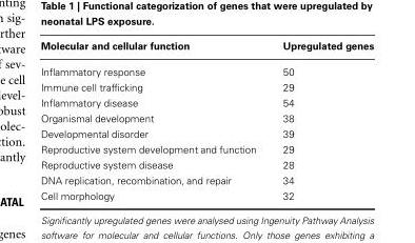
<table><thead><tr><td>Molecular and cellular function</td><td>Upregulated genes</td></tr></thead><tbody><tr><td>Inflammatory response</td><td>50</td></tr><tr><td>Immune cell trafficking</td><td>29</td></tr><tr><td>Inflammatory disease</td><td>54</td></tr><tr><td>Organismal development</td><td>38</td></tr><tr><td>Developmental disorder</td><td>39</td></tr><tr><td>Reproductive system development and function</td><td>29</td></tr><tr><td>Reproductive system disease</td><td>28</td></tr><tr><td>DNA replication, recombination, and repair</td><td>34</td></tr><tr><td>Cell morphology</td><td>32</td></tr></tbody></table>